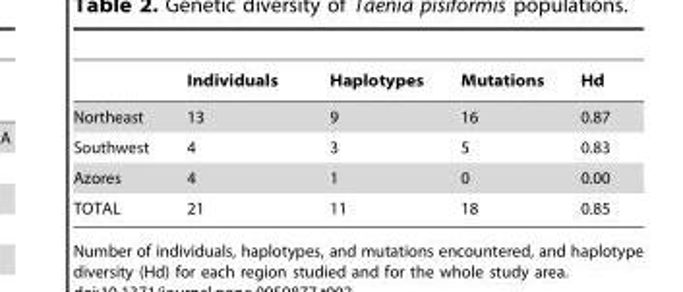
<table><thead><tr><td></td><td>Individuals</td><td>Haplotypes</td><td>Mutations</td><td>Hd</td></tr></thead><tbody><tr><td>Northeast</td><td>13</td><td>9</td><td>16</td><td>0.87</td></tr><tr><td>Southwest</td><td>4</td><td>3</td><td>5</td><td>0.83</td></tr><tr><td>Azores</td><td>4</td><td>1</td><td>0</td><td>0.00</td></tr><tr><td>TOTAL</td><td>21</td><td>11</td><td>18</td><td>0.85</td></tr></tbody></table>